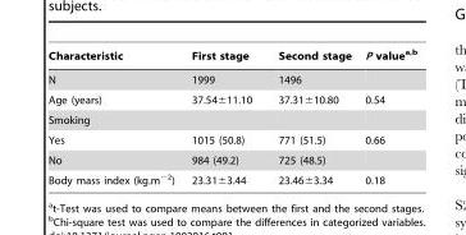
<table><thead><tr><td>Characteristic</td><td>First stage</td><td>Second stage</td><td>P value<sup>a,</sup>b</td></tr></thead><tbody><tr><td>N</td><td>1999</td><td>1496</td><td></td></tr><tr><td>Age (years)</td><td>37.54±11.10</td><td>37.31±10.80</td><td>0.54</td></tr><tr><td colspan="4">Smoking</td></tr><tr><td>Yes</td><td>1015 (50.8)</td><td>771 (51.5)</td><td>0.66</td></tr><tr><td>No</td><td>984 (49.2)</td><td>725 (48.5)</td><td></td></tr><tr><td>Body mass index (kg.m<sup>−2</sup>)</td><td>23.31±3.44</td><td>23.46±3.34</td><td>0.18</td></tr></tbody></table>